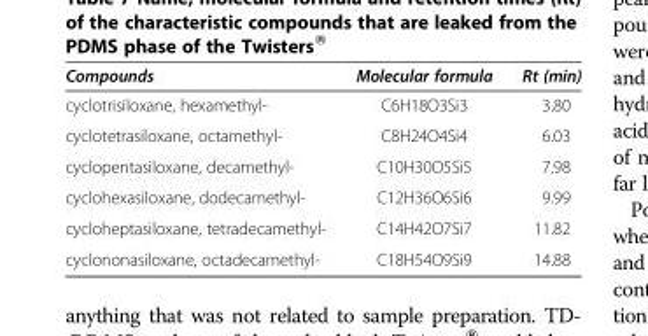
<table><thead><tr><td>Compounds</td><td>Molecular formula</td><td>Rt (min)</td></tr></thead><tbody><tr><td>cyclotrisiloxane, hexamethyl-</td><td>C6H18O3Si3</td><td>3.80</td></tr><tr><td>cyclotetrasiloxane, octamethyl-</td><td>C8H24O4Si4</td><td>6.03</td></tr><tr><td>cyclopentasiloxane, decamethyl-</td><td>C10H30O5Si5</td><td>7.98</td></tr><tr><td>cyclohexasiloxane, dodecamethyl-</td><td>C12H36O6Si6</td><td>9.99</td></tr><tr><td>cycloheptasiloxane, tetradecamethyl-</td><td>C14H42O7Si7</td><td>11.82</td></tr><tr><td>cyclononasiloxane, octadecamethyl-</td><td>C18H54O9Si9</td><td>14.88</td></tr></tbody></table>